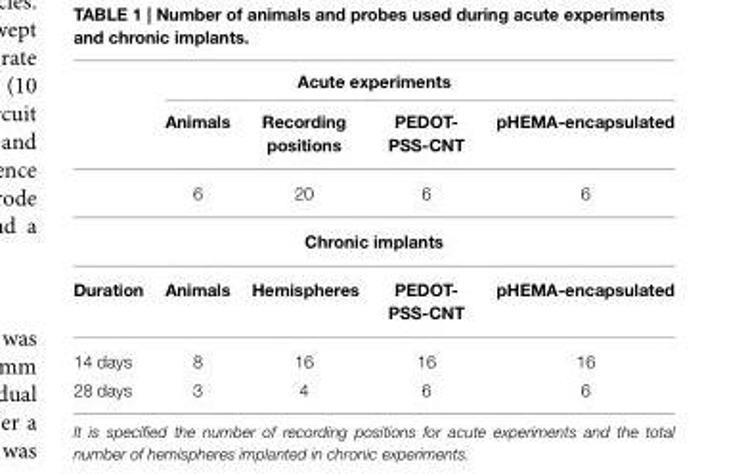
<table><thead><tr><td colspan="5">Acute experiments</td></tr><tr><td></td><td>Animals</td><td>Recording positions</td><td>PEDOT- PSS-CNT</td><td>pHEMA-encapsulated</td></tr></thead><tbody><tr><td></td><td>6</td><td>20</td><td>6</td><td>6</td></tr><tr><td colspan="5">Chronic implants</td></tr><tr><td>Duration</td><td>Animals</td><td>Hemispheres</td><td>PEDOT- PSS-CNT</td><td>pHEMA-encapsulated</td></tr><tr><td>14 days</td><td>8</td><td>16</td><td>16</td><td>16</td></tr><tr><td>28 days</td><td>3</td><td>4</td><td>6</td><td>6</td></tr></tbody></table>